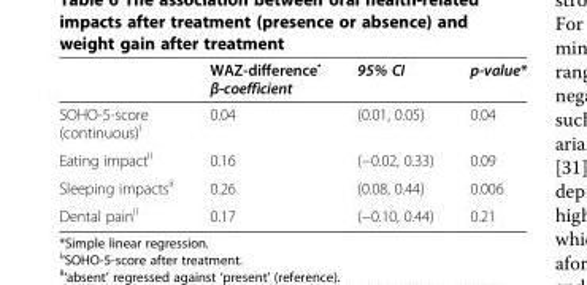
<table><thead><tr><td></td><td>WAZ-difference<sup>•</sup> β-coefficient</td><td>95% CI</td><td>p-value*</td></tr></thead><tbody><tr><td>SOHO-5-score (continuous)<sup>i</sup></td><td>0.04</td><td>(0.01, 0.05)</td><td>0.04</td></tr><tr><td>Eating impact<sup>ii</sup></td><td>0.16</td><td>(−0.02, 0.33)</td><td>0.09</td></tr><tr><td>Sleeping impacts<sup>ii</sup></td><td>0.26</td><td>(0.08, 0.44)</td><td>0.006</td></tr><tr><td>Dental pain<sup>ii</sup></td><td>0.17</td><td>(−0.10, 0.44)</td><td>0.21</td></tr></tbody></table>